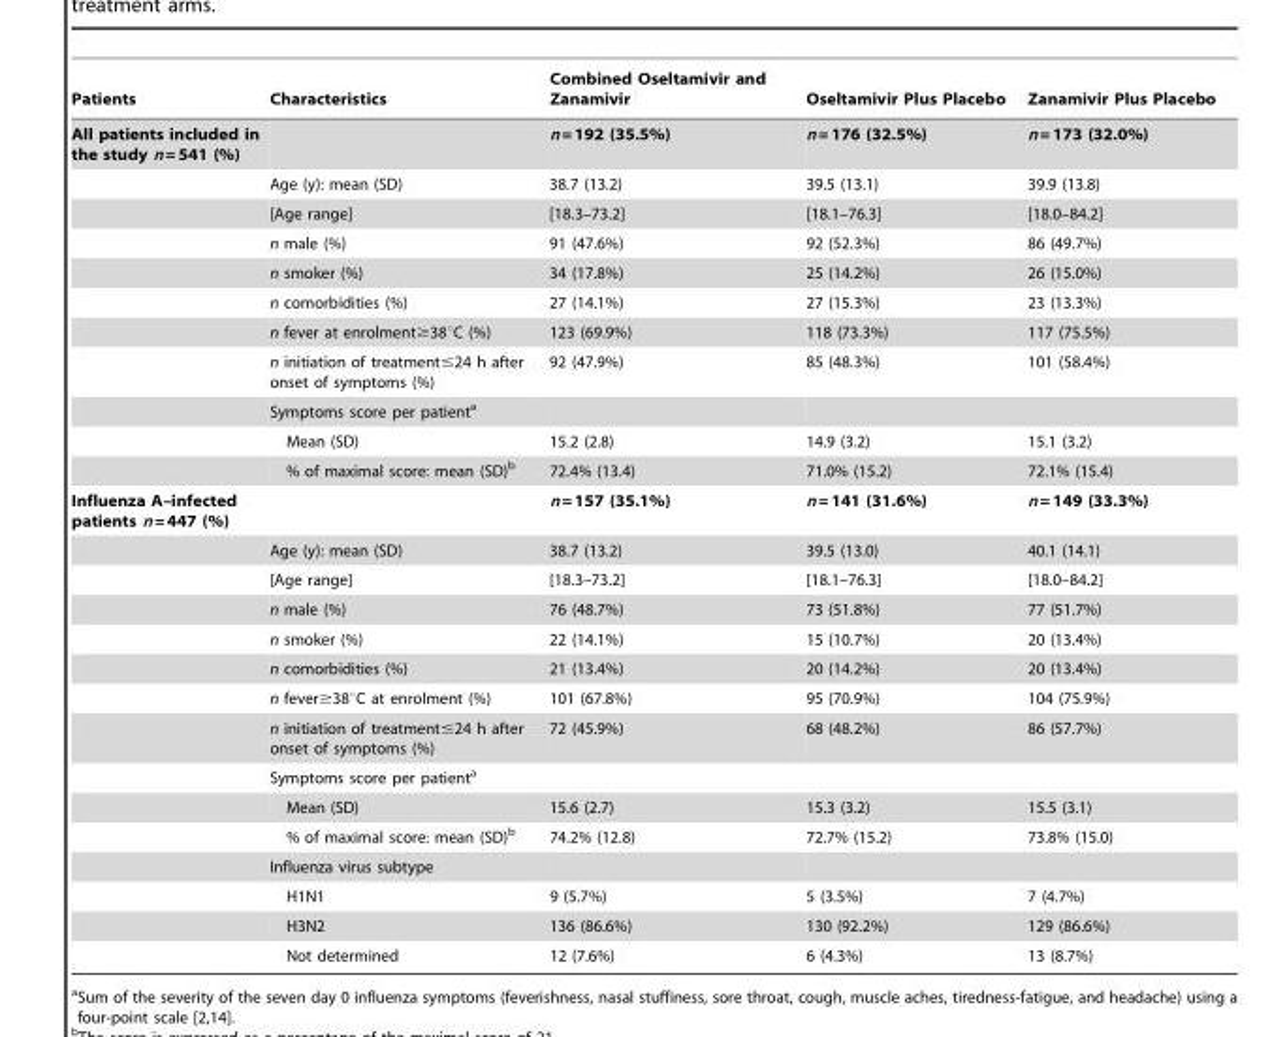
<table><thead><tr><td>Patients</td><td>Characteristics</td><td>Combined Oseltamivir and Zanamivir</td><td>Oseltamivir Plus Placebo</td><td>Zanamivir Plus Placebo</td></tr></thead><tbody><tr><td rowspan="11">All patients included in the study n = 541 (%)</td><td></td><td>n = 192 (35.5%)</td><td>n = 176 (32.5%)</td><td>n = 173 (32.0%)</td></tr><tr><td>Age (y): mean (SD)</td><td>38.7 (13.2)</td><td>39.5 (13.1)</td><td>39.9 (13.8)</td></tr><tr><td>[Age range]</td><td>[18.3–73.2]</td><td>[18.1–76.3]</td><td>[18.0–84.2]</td></tr><tr><td>n male (%)</td><td>91 (47.6%)</td><td>92 (52.3%)</td><td>86 (49.7%)</td></tr><tr><td>n smoker (%)</td><td>34 (17.8%)</td><td>25 (14.2%)</td><td>26 (15.0%)</td></tr><tr><td>n comorbidities (%)</td><td>27 (14.1%)</td><td>27 (15.3%)</td><td>23 (13.3%)</td></tr><tr><td>n fever at enrolment≥38°C (%)</td><td>123 (69.9%)</td><td>118 (73.3%)</td><td>117 (75.5%)</td></tr><tr><td>n initiation of treatment≤24 h after onset of symptoms (%)</td><td>92 (47.9%)</td><td>85 (48.3%)</td><td>101 (58.4%)</td></tr><tr><td>Symptoms score per patient<sup>a</sup></td><td></td><td></td><td></td></tr><tr><td>Mean (SD)</td><td>15.2 (2.8)</td><td>14.9 (3.2)</td><td>15.1 (3.2)</td></tr><tr><td>% of maximal score: mean (SD)<sup>b</sup></td><td>72.4% (13.4)</td><td>71.0% (15.2)</td><td>72.1% (15.4)</td></tr><tr><td rowspan="15">Influenza A–infected patients n = 447 (%)</td><td></td><td>n = 157 (35.1%)</td><td>n = 141 (31.6%)</td><td>n = 149 (33.3%)</td></tr><tr><td>Age (y): mean (SD)</td><td>38.7 (13.2)</td><td>39.5 (13.0)</td><td>40.1 (14.1)</td></tr><tr><td>[Age range]</td><td>[18.3–73.2]</td><td>[18.1–76.3]</td><td>[18.0–84.2]</td></tr><tr><td>n male (%)</td><td>76 (48.7%)</td><td>73 (51.8%)</td><td>77 (51.7%)</td></tr><tr><td>n smoker (%)</td><td>22 (14.1%)</td><td>15 (10.7%)</td><td>20 (13.4%)</td></tr><tr><td>n comorbidities (%)</td><td>21 (13.4%)</td><td>20 (14.2%)</td><td>20 (13.4%)</td></tr><tr><td>n fever≥38°C at enrolment (%)</td><td>101 (67.8%)</td><td>95 (70.9%)</td><td>104 (75.9%)</td></tr><tr><td>n initiation of treatment≤24 h after onset of symptoms (%)</td><td>72 (45.9%)</td><td>68 (48.2%)</td><td>86 (57.7%)</td></tr><tr><td>Symptoms score per patient<sup>a</sup></td><td></td><td></td><td></td></tr><tr><td>Mean (SD)</td><td>15.6 (2.7)</td><td>15.3 (3.2)</td><td>15.5 (3.1)</td></tr><tr><td>% of maximal score: mean (SD)<sup>b</sup></td><td>74.2% (12.8)</td><td>72.7% (15.2)</td><td>73.8% (15.0)</td></tr><tr><td>Influenza virus subtype</td><td></td><td></td><td></td></tr><tr><td>H1N1</td><td>9 (5.7%)</td><td>5 (3.5%)</td><td>7 (4.7%)</td></tr><tr><td>H3N2</td><td>136 (86.6%)</td><td>130 (92.2%)</td><td>129 (86.6%)</td></tr><tr><td>Not determined</td><td>12 (7.6%)</td><td>6 (4.3%)</td><td>13 (8.7%)</td></tr></tbody></table>